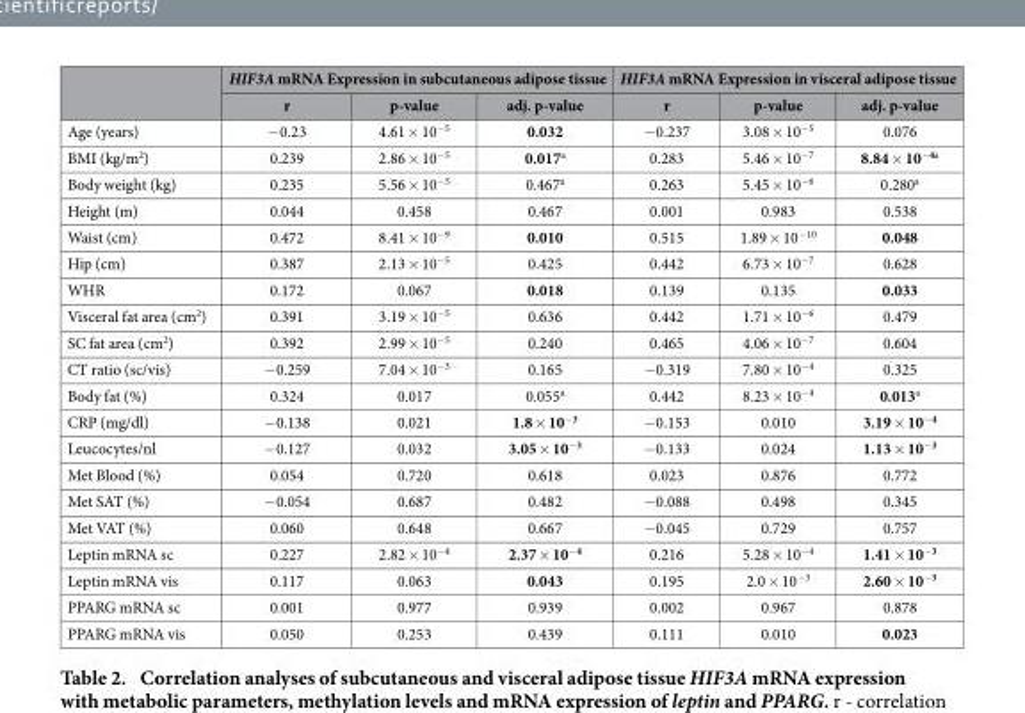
<table><thead><tr><td rowspan="2"></td><td colspan="3">HIF3A mRNA Expression in subcutaneous adipose tissue</td><td colspan="3">HIF3A mRNA Expression in visceral adipose tissue</td></tr><tr><td>r</td><td>p-value</td><td>adj. p-value</td><td>r</td><td>p-value</td><td>adj. p-value</td></tr></thead><tbody><tr><td>Age (years)</td><td>− 0.23</td><td>4.61 × 10<sup>−5</sup></td><td>0.032</td><td>− 0.237</td><td>3.08 × 10<sup>−5</sup></td><td>0.076</td></tr><tr><td>BMI (kg/m<sup>2</sup>)</td><td>0.239</td><td>2.86 × 10<sup>−5</sup></td><td>0.017<sup>a</sup></td><td>0.283</td><td>5.46 × 10<sup>−7</sup></td><td>8.84 × 10<sup>−4a</sup></td></tr><tr><td>Body weight (kg)</td><td>0.235</td><td>5.56 × 10<sup>−5</sup></td><td>0.467<sup>a</sup></td><td>0.263</td><td>5.45 × 10<sup>−6</sup></td><td>0.280<sup>a</sup></td></tr><tr><td>Height (m)</td><td>0.044</td><td>0.458</td><td>0.467</td><td>0.001</td><td>0.983</td><td>0.538</td></tr><tr><td>Waist (cm)</td><td>0.472</td><td>8.41 × 10<sup>−9</sup></td><td>0.010</td><td>0.515</td><td>1.89 × 10<sup>−10</sup></td><td>0.048</td></tr><tr><td>Hip (cm)</td><td>0.387</td><td>2.13 × 10<sup>−5</sup></td><td>0.425</td><td>0.442</td><td>6.73 × 10<sup>−7</sup></td><td>0.628</td></tr><tr><td>WHR</td><td>0.172</td><td>0.067</td><td>0.018</td><td>0.139</td><td>0.135</td><td>0.033</td></tr><tr><td>Visceral fat area (cm<sup>2</sup>)</td><td>0.391</td><td>3.19 × 10<sup>−5</sup></td><td>0.636</td><td>0.442</td><td>1.71 × 10<sup>−6</sup></td><td>0.479</td></tr><tr><td>SC fat area (cm<sup>2</sup>)</td><td>0.392</td><td>2.99 × 10<sup>−5</sup></td><td>0.240</td><td>0.465</td><td>4.06 × 10<sup>−7</sup></td><td>0.604</td></tr><tr><td>CT ratio (sc/vis)</td><td>− 0.259</td><td>7.04 × 10<sup>−3</sup></td><td>0.165</td><td>− 0.319</td><td>7.80 × 10<sup>−4</sup></td><td>0.325</td></tr><tr><td>Body fat (%)</td><td>0.324</td><td>0.017</td><td>0.055<sup>a</sup></td><td>0.442</td><td>8.23 × 10<sup>−4</sup></td><td>0.013<sup>a</sup></td></tr><tr><td>CRP (mg/dl)</td><td>− 0.138</td><td>0.021</td><td>1.8 × 10<sup>−3</sup></td><td>− 0.153</td><td>0.010</td><td>3.19 × 10<sup>−4</sup></td></tr><tr><td>Leucocytes/nl</td><td>− 0.127</td><td>0.032</td><td>3.05 × 10<sup>−3</sup></td><td>− 0.133</td><td>0.024</td><td>1.13 × 10<sup>−3</sup></td></tr><tr><td>Met Blood (%)</td><td>0.054</td><td>0.720</td><td>0.618</td><td>0.023</td><td>0.876</td><td>0.772</td></tr><tr><td>Met SAT (%)</td><td>− 0.054</td><td>0.687</td><td>0.482</td><td>− 0.088</td><td>0.498</td><td>0.345</td></tr><tr><td>Met VAT (%)</td><td>0.060</td><td>0.648</td><td>0.667</td><td>− 0.045</td><td>0.729</td><td>0.757</td></tr><tr><td>Leptin mRNA sc</td><td>0.227</td><td>2.82 × 10<sup>−4</sup></td><td>2.37 × 10<sup>−4</sup></td><td>0.216</td><td>5.28 × 10<sup>−4</sup></td><td>1.41 × 10<sup>−3</sup></td></tr><tr><td>Leptin mRNA vis</td><td>0.117</td><td>0.063</td><td>0.043</td><td>0.195</td><td>2.0 × 10<sup>−3</sup></td><td>2.60 × 10<sup>−3</sup></td></tr><tr><td>PPARG mRNA sc</td><td>0.001</td><td>0.977</td><td>0.939</td><td>0.002</td><td>0.967</td><td>0.878</td></tr><tr><td>PPARG mRNA vis</td><td>0.050</td><td>0.253</td><td>0.439</td><td>0.111</td><td>0.010</td><td>0.023</td></tr></tbody></table>